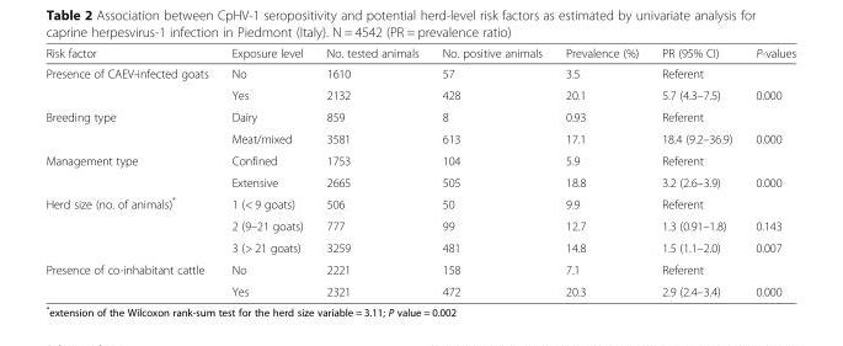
<table><thead><tr><td>Risk factor</td><td>Exposure level</td><td>No. tested animals</td><td>No. positive animals</td><td>Prevalence (%)</td><td>PR (95% CI)</td><td>P-values</td></tr></thead><tbody><tr><td rowspan="2">Presence of CAEV-infected goats</td><td>No</td><td>1610</td><td>57</td><td>3.5</td><td>Referent</td><td></td></tr><tr><td>Yes</td><td>2132</td><td>428</td><td>20.1</td><td>5.7 (4.3–7.5)</td><td>0.000</td></tr><tr><td rowspan="2">Breeding type</td><td>Dairy</td><td>859</td><td>8</td><td>0.93</td><td>Referent</td><td></td></tr><tr><td>Meat/mixed</td><td>3581</td><td>613</td><td>17.1</td><td>18.4 (9.2–36.9)</td><td>0.000</td></tr><tr><td rowspan="2">Management type</td><td>Confined</td><td>1753</td><td>104</td><td>5.9</td><td>Referent</td><td></td></tr><tr><td>Extensive</td><td>2665</td><td>505</td><td>18.8</td><td>3.2 (2.6–3.9)</td><td>0.000</td></tr><tr><td rowspan="3">Herd size (no. of animals)*</td><td>1 (&lt; 9 goats)</td><td>506</td><td>50</td><td>9.9</td><td>Referent</td><td></td></tr><tr><td>2 (9–21 goats)</td><td>777</td><td>99</td><td>12.7</td><td>1.3 (0.91–1.8)</td><td>0.143</td></tr><tr><td>3 (&gt; 21 goats)</td><td>3259</td><td>481</td><td>14.8</td><td>1.5 (1.1–2.0)</td><td>0.007</td></tr><tr><td rowspan="2">Presence of co-inhabitant cattle</td><td>No</td><td>2221</td><td>158</td><td>7.1</td><td>Referent</td><td></td></tr><tr><td>Yes</td><td>2321</td><td>472</td><td>20.3</td><td>2.9 (2.4–3.4)</td><td>0.000</td></tr></tbody></table>